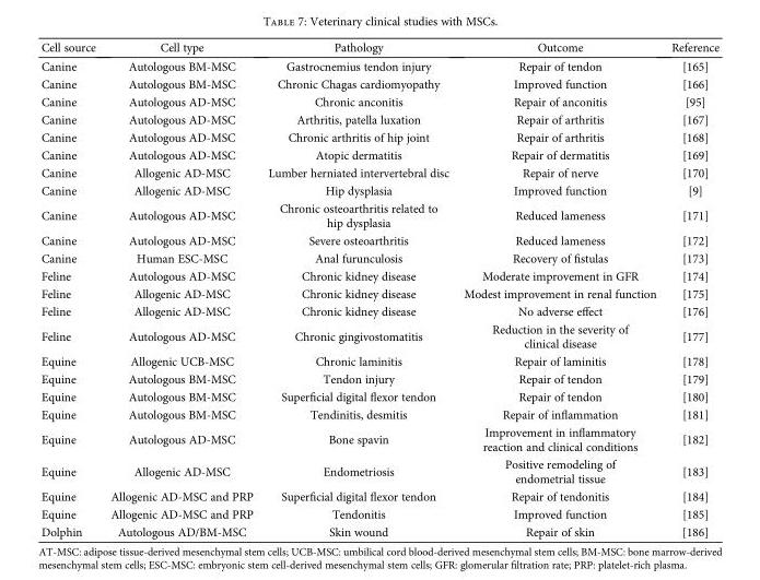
<table><thead><tr><td>Cell source</td><td>Cell type</td><td>Pathology</td><td>Outcome</td><td>Reference</td></tr></thead><tbody><tr><td>Canine</td><td>Autologous BM-MSC</td><td>Gastrocnemius tendon injury</td><td>Repair of tendon</td><td>[165]</td></tr><tr><td>Canine</td><td>Autologous BM-MSC</td><td>Chronic Chagas cardiomyopathy</td><td>Improved function</td><td>[166]</td></tr><tr><td>Canine</td><td>Autologous AD-MSC</td><td>Chronic anconitis</td><td>Repair of anconitis</td><td>[95]</td></tr><tr><td>Canine</td><td>Autologous AD-MSC</td><td>Arthritis, patella luxation</td><td>Repair of arthritis</td><td>[167]</td></tr><tr><td>Canine</td><td>Autologous AD-MSC</td><td>Chronic arthritis of hip joint</td><td>Repair of arthritis</td><td>[168]</td></tr><tr><td>Canine</td><td>Autologous AD-MSC</td><td>Atopic dermatitis</td><td>Repair of dermatitis</td><td>[169]</td></tr><tr><td>Canine</td><td>Allogenic AD-MSC</td><td>Lumber herniated intervertebral disc</td><td>Repair of nerve</td><td>[170]</td></tr><tr><td>Canine</td><td>Allogenic AD-MSC</td><td>Hip dysplasia</td><td>Improved function</td><td>[9]</td></tr><tr><td>Canine</td><td>Autologous AD-MSC</td><td>Chronic osteoarthritis related to hip dysplasia</td><td>Reduced lameness</td><td>[171]</td></tr><tr><td>Canine</td><td>Autologous AD-MSC</td><td>Severe osteoarthritis</td><td>Reduced lameness</td><td>[172]</td></tr><tr><td>Canine</td><td>Human ESC-MSC</td><td>Anal furunculosis</td><td>Recovery of fistulas</td><td>[173]</td></tr><tr><td>Feline</td><td>Autologous AD-MSC</td><td>Chronic kidney disease</td><td>Moderate improvement in GFR</td><td>[174]</td></tr><tr><td>Feline</td><td>Allogenic AD-MSC</td><td>Chronic kidney disease</td><td>Modest improvement in renal function</td><td>[175]</td></tr><tr><td>Feline</td><td>Allogenic AD-MSC</td><td>Chronic kidney disease</td><td>No adverse effect</td><td>[176]</td></tr><tr><td>Feline</td><td>Autologous AD-MSC</td><td>Chronic gingivostomatitis</td><td>Reduction in the severity of clinical disease</td><td>[177]</td></tr><tr><td>Equine</td><td>Allogenic UCB-MSC</td><td>Chronic laminitis</td><td>Repair of laminitis</td><td>[178]</td></tr><tr><td>Equine</td><td>Autologous BM-MSC</td><td>Tendon injury</td><td>Repair of tendon</td><td>[179]</td></tr><tr><td>Equine</td><td>Autologous BM-MSC</td><td>Superficial digital flexor tendon</td><td>Repair of tendon</td><td>[180]</td></tr><tr><td>Equine</td><td>Autologous BM-MSC</td><td>Tendinitis, desmitis</td><td>Repair of inflammation</td><td>[181]</td></tr><tr><td>Equine</td><td>Autologous AD-MSC</td><td>Bone spavin</td><td>Improvement in inflammatory reaction and clinical conditions</td><td>[182]</td></tr><tr><td>Equine</td><td>Allogenic AD-MSC</td><td>Endometriosis</td><td>Positive remodeling of endometrial tissue</td><td>[183]</td></tr><tr><td>Equine</td><td>Allogenic AD-MSC and PRP</td><td>Superficial digital flexor tendon</td><td>Repair of tendonitis</td><td>[184]</td></tr><tr><td>Equine</td><td>Allogenic AD-MSC and PRP</td><td>Tendonitis</td><td>Improved function</td><td>[185]</td></tr><tr><td>Dolphin</td><td>Autologous AD/BM-MSC</td><td>Skin wound</td><td>Repair of skin</td><td>[186]</td></tr></tbody></table>